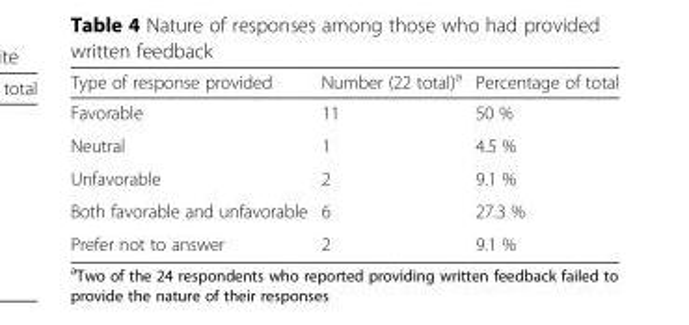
<table><thead><tr><td>Type of response provided</td><td>Number (22 total)<sup>a</sup></td><td>Percentage of total</td></tr></thead><tbody><tr><td>Favorable</td><td>11</td><td>50 %</td></tr><tr><td>Neutral</td><td>1</td><td>4.5 %</td></tr><tr><td>Unfavorable</td><td>2</td><td>9.1 %</td></tr><tr><td>Both favorable and unfavorable</td><td>6</td><td>27.3 %</td></tr><tr><td>Prefer not to answer</td><td>2</td><td>9.1 %</td></tr></tbody></table>